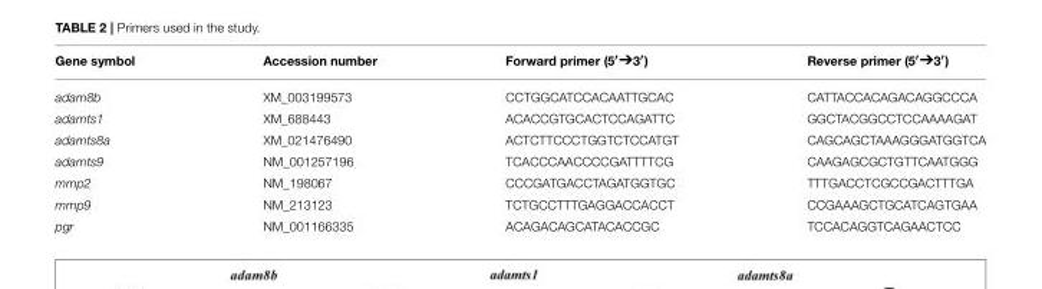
<table><thead><tr><td>Gene symbol</td><td>Accession number</td><td>Forward primer (5<sup>′</sup>⟶3<sup>′</sup>)</td><td>Reverse primer (5<sup>′</sup>⟶3<sup>′</sup>)</td></tr></thead><tbody><tr><td>adam8b</td><td>XM_003199573</td><td>CCTGGCATCCACAATTGCAC</td><td>CATTACCACAGACAGGCCCA</td></tr><tr><td>adamts1</td><td>XM_688443</td><td>ACACCGTGCACTCCAGATTC</td><td>GGCTACGGCCTCCAAAAGAT</td></tr><tr><td>adamts8a</td><td>XM_021476490</td><td>ACTCTTCCCTGGTCTCCATGT</td><td>CAGCAGCTAAAGGGATGGTCA</td></tr><tr><td>adamts9</td><td>NM_001257196</td><td>TCACCCAACCCCGATTTTCG</td><td>CAAGAGCGCTGTTCAATGGG</td></tr><tr><td>mmp2</td><td>NM_198067</td><td>CCCGATGACCTAGATGGTGC</td><td>TTTGACCTCGCCGACTTTGA</td></tr><tr><td>mmp9</td><td>NM_213123</td><td>TCTGCCTTTGAGGACCACCT</td><td>CCGAAAGCTGCATCAGTGAA</td></tr><tr><td>pgr</td><td>NM_001166335</td><td>ACAGACAGCATACACCGC</td><td>TCCACAGGTCAGAACTCC</td></tr></tbody></table>